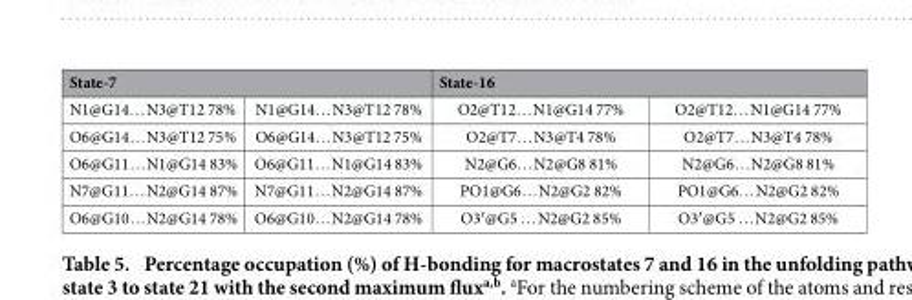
<table><thead><tr><td colspan="2">State-7</td><td colspan="2">State-16</td></tr><tr><td>N1@G14… N3@T12 78%</td><td>N1@G14… N3@T12 78%</td><td>O2@T12… N1@G14 77%</td><td>O2@T12… N1@G14 77%</td></tr></thead><tbody><tr><td>O6@G14… N3@T12 75%</td><td>O6@G14… N3@T12 75%</td><td>O2@T7… N3@T4 78%</td><td>O2@T7… N3@T4 78%</td></tr><tr><td>O6@G11… N1@G14 83%</td><td>O6@G11… N1@G14 83%</td><td>N2@G6… N2@G8 81%</td><td>N2@G6… N2@G8 81%</td></tr><tr><td>N7@G11… N2@G14 87%</td><td>N7@G11… N2@G14 87%</td><td>PO1@G6… N2@G2 82%</td><td>PO1@G6… N2@G2 82%</td></tr><tr><td>O6@G10… N2@G14 78%</td><td>O6@G10… N2@G14 78%</td><td>O3′ @G5 … N2@G2 85%</td><td>O3′ @G5 … N2@G2 85%</td></tr></tbody></table>